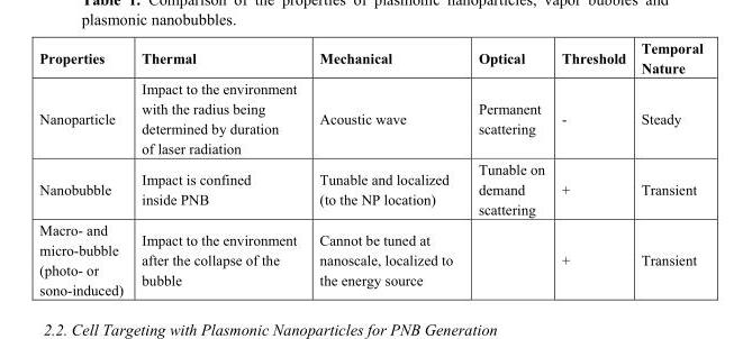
<table><thead><tr><td>Properties</td><td>Thermal</td><td>Mechanical</td><td>Optical</td><td>Threshold</td><td>Temporal Nature</td></tr></thead><tbody><tr><td>Nanoparticle</td><td>Impact to the environment with the radius being determined by duration of laser radiation</td><td>Acoustic wave</td><td>Permanent scattering</td><td>-</td><td>Steady</td></tr><tr><td>Nanobubble</td><td>Impact is confined inside PNB</td><td>Tunable and localized (to the NP location)</td><td>Tunable on demand scattering</td><td>+</td><td>Transient</td></tr><tr><td>Macro- and micro-bubble (photo- or sono-induced)</td><td>Impact to the environment after the collapse of the bubble</td><td>Cannot be tuned at nanoscale, localized to the energy source</td><td></td><td>+</td><td>Transient</td></tr></tbody></table>